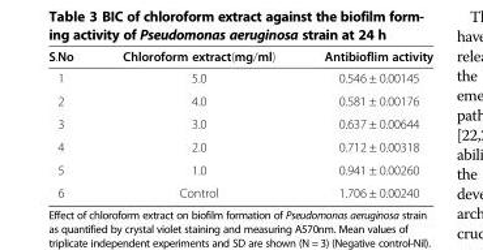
<table><thead><tr><td>S.No</td><td>Chloroform extract(mg/ml)</td><td>Antibioflim activity</td></tr></thead><tbody><tr><td>1</td><td>5.0</td><td>0.546 ± 0.00145</td></tr><tr><td>2</td><td>4.0</td><td>0.581 ± 0.00176</td></tr><tr><td>3</td><td>3.0</td><td>0.637 ± 0.00644</td></tr><tr><td>4</td><td>2.0</td><td>0.712 ± 0.00318</td></tr><tr><td>5</td><td>1.0</td><td>0.941 ± 0.00260</td></tr><tr><td>6</td><td>Control</td><td>1.706 ± 0.00240</td></tr></tbody></table>